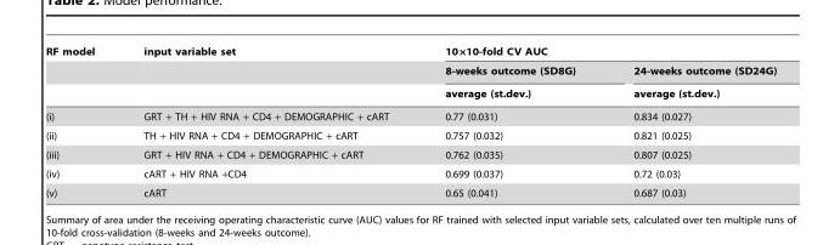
<table><thead><tr><td rowspan="3">RF model</td><td rowspan="3">input variable set</td><td colspan="2">10×10-fold CV AUC</td></tr><tr><td rowspan="2">8-weeks outcome (SD8G) average (st.dev.)</td><td rowspan="2">24-weeks outcome (SD24G) average (st.dev.)</td></tr><tr></tr></thead><tbody><tr><td>(i)</td><td>GRT + TH + HIV RNA + CD4 + DEMOGRAPHIC + cART</td><td>0.77 (0.031)</td><td>0.834 (0.027)</td></tr><tr><td>(ii)</td><td>TH + HIV RNA + CD4 + DEMOGRAPHIC + cART</td><td>0.757 (0.032)</td><td>0.821 (0.025)</td></tr><tr><td>(iii)</td><td>GRT + HIV RNA + CD4 + DEMOGRAPHIC + cART</td><td>0.762 (0.035)</td><td>0.807 (0.025)</td></tr><tr><td>(iv)</td><td>cART + HIV RNA +CD4</td><td>0.699 (0.037)</td><td>0.72 (0.03)</td></tr><tr><td>(v)</td><td>cART</td><td>0.65 (0.041)</td><td>0.687 (0.03)</td></tr></tbody></table>